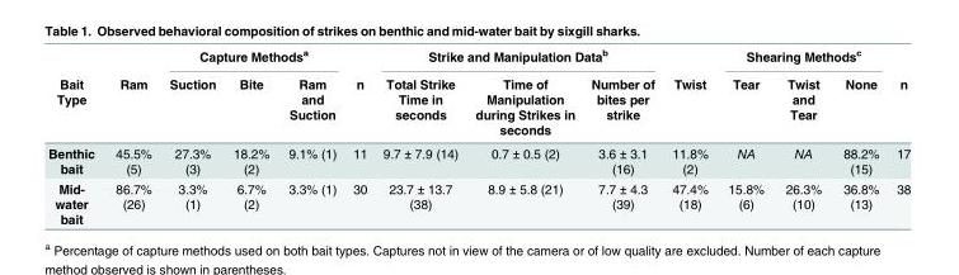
<table><thead><tr><td rowspan="2">Bait Type</td><td rowspan="2">Ram</td><td colspan="3">Capture Methods<sup>a</sup></td><td rowspan="2">n</td><td colspan="3">Strike and Manipulation Data<sup>b</sup></td><td rowspan="2">Twist</td><td colspan="3">Shearing Methods<sup>c</sup></td><td rowspan="2">n</td></tr><tr><td>Suction</td><td>Bite</td><td>Ram and Suction</td><td>Total Strike Time in seconds</td><td>Time of Manipulation during Strikes in seconds</td><td>Number of bites per strike</td><td>Tear</td><td>Twist and Tear</td><td>None</td></tr></thead><tbody><tr><td>Benthic bait</td><td>45.5% (5)</td><td>27.3% (3)</td><td>18.2% (2)</td><td>9.1% (1)</td><td>11</td><td>9.7 ± 7.9 (14)</td><td>0.7 ± 0.5 (2)</td><td>3.6 ± 3.1 (16)</td><td>11.8% (2)</td><td>NA</td><td>NA</td><td>88.2% (15)</td><td>17</td></tr><tr><td>Mid- water bait</td><td>86.7% (26)</td><td>3.3% (1)</td><td>6.7% (2)</td><td>3.3% (1)</td><td>30</td><td>23.7 ± 13.7 (38)</td><td>8.9 ± 5.8 (21)</td><td>7.7 ± 4.3 (39)</td><td>47.4% (18)</td><td>15.8% (6)</td><td>26.3% (10)</td><td>36.8% (13)</td><td>38</td></tr></tbody></table>